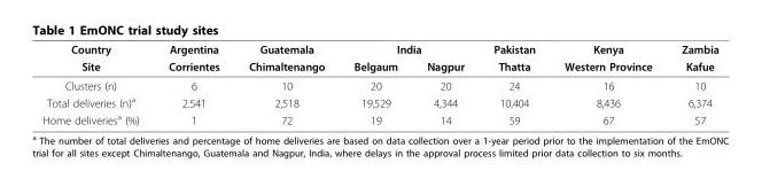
<table><thead><tr><td rowspan="2">Country Site</td><td rowspan="2">Argentina Corrientes</td><td rowspan="2">Guatemala Chimaltenango</td><td colspan="2">India</td><td rowspan="2">Pakistan Thatta</td><td rowspan="2">Kenya Western Province</td><td rowspan="2">Zambia Kafue</td></tr><tr><td>Belgaum</td><td>Nagpur</td></tr></thead><tbody><tr><td>Clusters (n)</td><td>6</td><td>10</td><td>20</td><td>20</td><td>24</td><td>16</td><td>10</td></tr><tr><td>Total deliveries (n)<sup>a</sup></td><td>2.541</td><td>2,518</td><td>19,529</td><td>4,344</td><td>10,404</td><td>8,436</td><td>6,374</td></tr><tr><td>Home deliveries<sup>a</sup> (%)</td><td>1</td><td>72</td><td>19</td><td>14</td><td>59</td><td>67</td><td>57</td></tr></tbody></table>